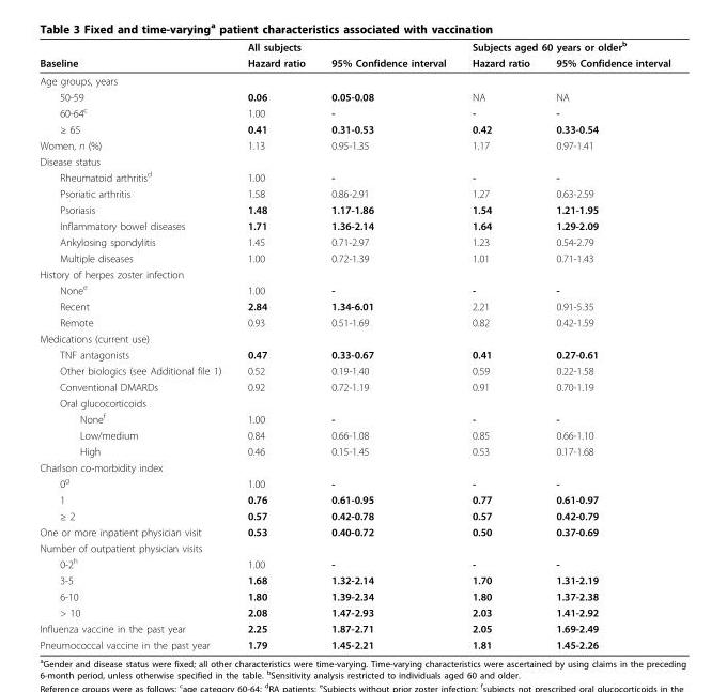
<table><thead><tr><td rowspan="2">Baseline</td><td colspan="2">All subjects</td><td colspan="2">Subjects aged 60 years or older<sup>b</sup></td></tr><tr><td>Hazard ratio</td><td>95% Confidence interval</td><td>Hazard ratio</td><td>95% Confidence interval</td></tr></thead><tbody><tr><td colspan="5">Age groups, years</td></tr><tr><td>50-59</td><td>0.06</td><td>0.05-0.08</td><td>NA</td><td>NA</td></tr><tr><td>60-64<sup>c</sup></td><td>1.00</td><td>-</td><td>-</td><td>-</td></tr><tr><td>≥ 65</td><td>0.41</td><td>0.31-0.53</td><td>0.42</td><td>0.33-0.54</td></tr><tr><td>Women, n (%)</td><td>1.13</td><td>0.95-1.35</td><td>1.17</td><td>0.97-1.41</td></tr><tr><td colspan="5">Disease status</td></tr><tr><td>Rheumatoid arthritis<sup>d</sup></td><td>1.00</td><td>-</td><td>-</td><td>-</td></tr><tr><td>Psoriatic arthritis</td><td>1.58</td><td>0.86-2.91</td><td>1.27</td><td>0.63-2.59</td></tr><tr><td>Psoriasis</td><td>1.48</td><td>1.17-1.86</td><td>1.54</td><td>1.21-1.95</td></tr><tr><td>Inflammatory bowel diseases</td><td>1.71</td><td>1.36-2.14</td><td>1.64</td><td>1.29-2.09</td></tr><tr><td>Ankylosing spondylitis</td><td>1.45</td><td>0.71-2.97</td><td>1.23</td><td>0.54-2.79</td></tr><tr><td>Multiple diseases</td><td>1.00</td><td>0.72-1.39</td><td>1.01</td><td>0.71-1.43</td></tr><tr><td colspan="5">History of herpes zoster infection</td></tr><tr><td>None<sup>e</sup></td><td>1.00</td><td>-</td><td>-</td><td>-</td></tr><tr><td>Recent</td><td>2.84</td><td>1.34-6.01</td><td>2.21</td><td>0.91-5.35</td></tr><tr><td>Remote</td><td>0.93</td><td>0.51-1.69</td><td>0.82</td><td>0.42-1.59</td></tr><tr><td colspan="5">Medications (current use)</td></tr><tr><td>TNF antagonists</td><td>0.47</td><td>0.33-0.67</td><td>0.41</td><td>0.27-0.61</td></tr><tr><td>Other biologics (see Additional file 1)</td><td>0.52</td><td>0.19-1.40</td><td>0.59</td><td>0.22-1.58</td></tr><tr><td>Conventional DMARDs</td><td>0.92</td><td>0.72-1.19</td><td>0.91</td><td>0.70-1.19</td></tr><tr><td colspan="5">Oral glucocorticoids</td></tr><tr><td>None<sup>f</sup></td><td>1.00</td><td>-</td><td>-</td><td>-</td></tr><tr><td>Low/medium</td><td>0.84</td><td>0.66-1.08</td><td>0.85</td><td>0.66-1.10</td></tr><tr><td>High</td><td>0.46</td><td>0.15-1.45</td><td>0.53</td><td>0.17-1.68</td></tr><tr><td colspan="5">Charlson co-morbidity index</td></tr><tr><td>0<sup>g</sup></td><td>1.00</td><td>-</td><td>-</td><td>-</td></tr><tr><td>1</td><td>0.76</td><td>0.61-0.95</td><td>0.77</td><td>0.61-0.97</td></tr><tr><td>≥ 2</td><td>0.57</td><td>0.42-0.78</td><td>0.57</td><td>0.42-0.79</td></tr><tr><td>One or more inpatient physician visit</td><td>0.53</td><td>0.40-0.72</td><td>0.50</td><td>0.37-0.69</td></tr><tr><td colspan="5">Number of outpatient physician visits</td></tr><tr><td>0-2<sup>h</sup></td><td>1.00</td><td>-</td><td>-</td><td>-</td></tr><tr><td>3-5</td><td>1.68</td><td>1.32-2.14</td><td>1.70</td><td>1.31-2.19</td></tr><tr><td>6-10</td><td>1.80</td><td>1.39-2.34</td><td>1.80</td><td>1.37-2.38</td></tr><tr><td>&gt; 10</td><td>2.08</td><td>1.47-2.93</td><td>2.03</td><td>1.41-2.92</td></tr><tr><td>Influenza vaccine in the past year</td><td>2.25</td><td>1.87-2.71</td><td>2.05</td><td>1.69-2.49</td></tr><tr><td>Pneumococcal vaccine in the past year</td><td>1.79</td><td>1.45-2.21</td><td>1.81</td><td>1.45-2.26</td></tr></tbody></table>